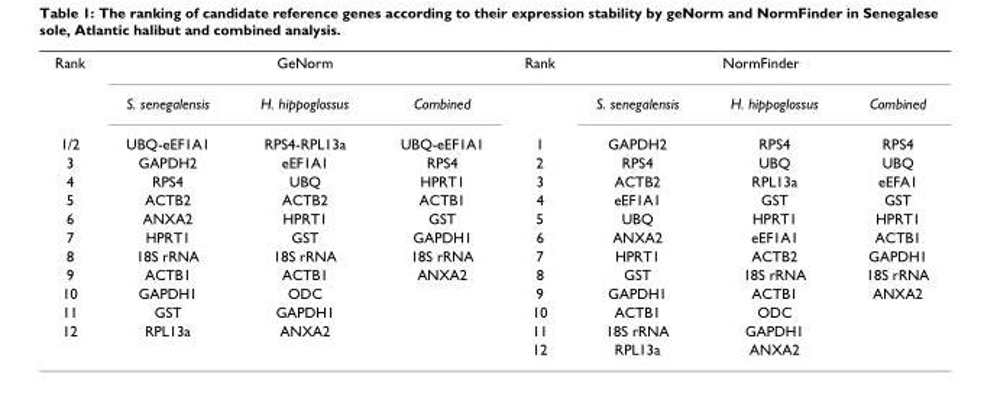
<table><tbody><tr><td rowspan="2">Rank</td><td colspan="3">GeNorm</td><td>Rank</td><td colspan="3">NormFinder</td></tr><tr><td>S. senegalensis</td><td>H. hippoglossus</td><td>Combined</td><td></td><td>S. senegalensis</td><td>H. hippoglossus</td><td>Combined</td></tr><tr><td>1/2</td><td>UBQ-eEF1A1</td><td>RPS4-RPL13a</td><td>UBQ-eEF1A1</td><td>1</td><td>GAPDH2</td><td>RPS4</td><td>RPS4</td></tr><tr><td>3</td><td>GAPDH2</td><td>eEF1A1</td><td>RPS4</td><td>2</td><td>RPS4</td><td>UBQ</td><td>UBQ</td></tr><tr><td>4</td><td>RPS4</td><td>UBQ</td><td>HPRT1</td><td>3</td><td>ACTB2</td><td>RPL13a</td><td>eEFA1</td></tr><tr><td>5</td><td>ACTB2</td><td>ACTB2</td><td>ACTB1</td><td>4</td><td>eEF1A1</td><td>GST</td><td>GST</td></tr><tr><td>6</td><td>ANXA2</td><td>HPRT1</td><td>GST</td><td>5</td><td>UBQ</td><td>HPRT1</td><td>HPRT1</td></tr><tr><td>7</td><td>HPRT1</td><td>GST</td><td>GAPDH1</td><td>6</td><td>ANXA2</td><td>eEF1A1</td><td>ACTB1</td></tr><tr><td>8</td><td>18S rRNA</td><td>18S rRNA</td><td>18S rRNA</td><td>7</td><td>HPRT1</td><td>ACTB2</td><td>GAPDH1</td></tr><tr><td>9</td><td>ACTB1</td><td>ACTB1</td><td>ANXA2</td><td>8</td><td>GST</td><td>18S rRNA</td><td>18S rRNA</td></tr><tr><td>10</td><td>GAPDH1</td><td>ODC</td><td></td><td>9</td><td>GAPDH1</td><td>ACTB1</td><td>ANXA2</td></tr><tr><td>11</td><td>GST</td><td>GAPDH1</td><td></td><td>10</td><td>ACTB1</td><td>ODC</td><td></td></tr><tr><td rowspan="2">12</td><td>RPL13a</td><td>ANXA2</td><td></td><td>11</td><td>18S rRNA</td><td>GAPDH1</td><td></td></tr><tr><td></td><td></td><td></td><td>12</td><td>RPL13a</td><td>ANXA2</td><td></td></tr></tbody></table>